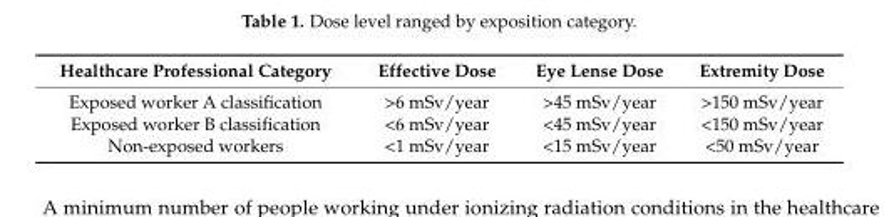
<table><thead><tr><td>Healthcare Professional Category</td><td>Effective Dose</td><td>Eye Lense Dose</td><td>Extremity Dose</td></tr></thead><tbody><tr><td>Exposed worker A classification</td><td>&gt;6 mSv/year</td><td>&gt;45 mSv/year</td><td>&gt;150 mSv/year</td></tr><tr><td>Exposed worker B classification</td><td>&lt;6 mSv/year</td><td>&lt;45 mSv/year</td><td>&lt;150 mSv/year</td></tr><tr><td>Non-exposed workers</td><td>&lt;1 mSv/year</td><td>&lt;15 mSv/year</td><td>&lt;50 mSv/year</td></tr></tbody></table>